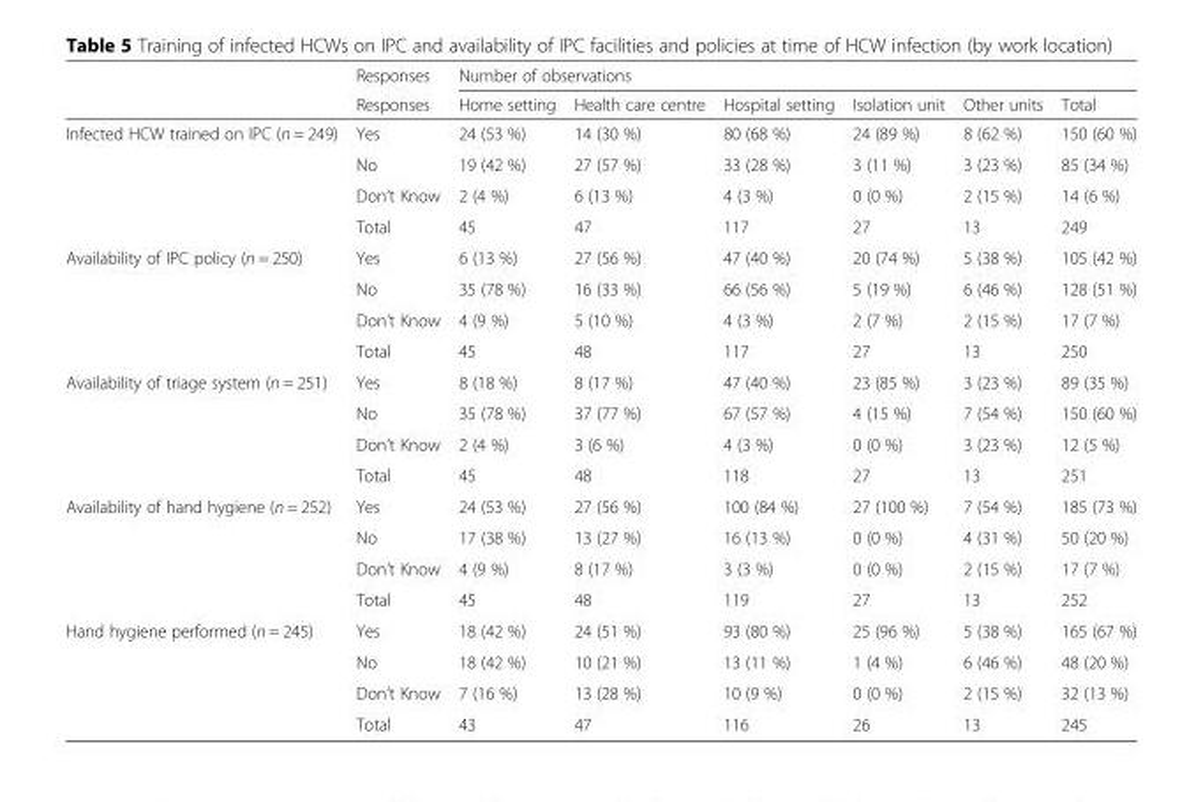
<table><thead><tr><td rowspan="2"></td><td rowspan="2">Responses Responses</td><td colspan="6">Number of observations</td></tr><tr><td>Home setting</td><td>Health care centre</td><td>Hospital setting</td><td>Isolation unit</td><td>Other units</td><td>Total</td></tr></thead><tbody><tr><td rowspan="4">Infected HCW trained on IPC (n = 249)</td><td>Yes</td><td>24 (53 %)</td><td>14 (30 %)</td><td>80 (68 %)</td><td>24 (89 %)</td><td>8 (62 %)</td><td>150 (60 %)</td></tr><tr><td>No</td><td>19 (42 %)</td><td>27 (57 %)</td><td>33 (28 %)</td><td>3 (11 %)</td><td>3 (23 %)</td><td>85 (34 %)</td></tr><tr><td>Don’t Know</td><td>2 (4 %)</td><td>6 (13 %)</td><td>4 (3 %)</td><td>0 (0 %)</td><td>2 (15 %)</td><td>14 (6 %)</td></tr><tr><td>Total</td><td>45</td><td>47</td><td>117</td><td>27</td><td>13</td><td>249</td></tr><tr><td rowspan="4">Availability of IPC policy (n = 250)</td><td>Yes</td><td>6 (13 %)</td><td>27 (56 %)</td><td>47 (40 %)</td><td>20 (74 %)</td><td>5 (38 %)</td><td>105 (42 %)</td></tr><tr><td>No</td><td>35 (78 %)</td><td>16 (33 %)</td><td>66 (56 %)</td><td>5 (19 %)</td><td>6 (46 %)</td><td>128 (51 %)</td></tr><tr><td>Don’t Know</td><td>4 (9 %)</td><td>5 (10 %)</td><td>4 (3 %)</td><td>2 (7 %)</td><td>2 (15 %)</td><td>17 (7 %)</td></tr><tr><td>Total</td><td>45</td><td>48</td><td>117</td><td>27</td><td>13</td><td>250</td></tr><tr><td rowspan="4">Availability of triage system (n = 251)</td><td>Yes</td><td>8 (18 %)</td><td>8 (17 %)</td><td>47 (40 %)</td><td>23 (85 %)</td><td>3 (23 %)</td><td>89 (35 %)</td></tr><tr><td>No</td><td>35 (78 %)</td><td>37 (77 %)</td><td>67 (57 %)</td><td>4 (15 %)</td><td>7 (54 %)</td><td>150 (60 %)</td></tr><tr><td>Don’t Know</td><td>2 (4 %)</td><td>3 (6 %)</td><td>4 (3 %)</td><td>0 (0 %)</td><td>3 (23 %)</td><td>12 (5 %)</td></tr><tr><td>Total</td><td>45</td><td>48</td><td>118</td><td>27</td><td>13</td><td>251</td></tr><tr><td rowspan="4">Availability of hand hygiene (n = 252)</td><td>Yes</td><td>24 (53 %)</td><td>27 (56 %)</td><td>100 (84 %)</td><td>27 (100 %)</td><td>7 (54 %)</td><td>185 (73 %)</td></tr><tr><td>No</td><td>17 (38 %)</td><td>13 (27 %)</td><td>16 (13 %)</td><td>0 (0 %)</td><td>4 (31 %)</td><td>50 (20 %)</td></tr><tr><td>Don’t Know</td><td>4 (9 %)</td><td>8 (17 %)</td><td>3 (3 %)</td><td>0 (0 %)</td><td>2 (15 %)</td><td>17 (7 %)</td></tr><tr><td>Total</td><td>45</td><td>48</td><td>119</td><td>27</td><td>13</td><td>252</td></tr><tr><td rowspan="4">Hand hygiene performed (n = 245)</td><td>Yes</td><td>18 (42 %)</td><td>24 (51 %)</td><td>93 (80 %)</td><td>25 (96 %)</td><td>5 (38 %)</td><td>165 (67 %)</td></tr><tr><td>No</td><td>18 (42 %)</td><td>10 (21 %)</td><td>13 (11 %)</td><td>1 (4 %)</td><td>6 (46 %)</td><td>48 (20 %)</td></tr><tr><td>Don’t Know</td><td>7 (16 %)</td><td>13 (28 %)</td><td>10 (9 %)</td><td>0 (0 %)</td><td>2 (15 %)</td><td>32 (13 %)</td></tr><tr><td>Total</td><td>43</td><td>47</td><td>116</td><td>26</td><td>13</td><td>245</td></tr></tbody></table>